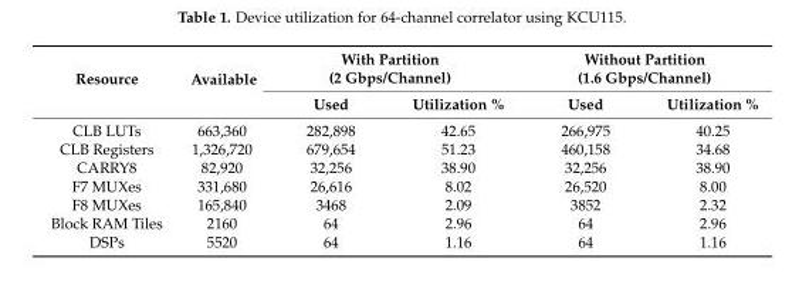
<table><thead><tr><td rowspan="2">Resource</td><td rowspan="2">Available</td><td colspan="2">With Partition (2 Gbps/Channel)</td><td colspan="2">Without Partition (1.6 Gbps/Channel)</td></tr><tr><td>Used</td><td>Utilization %</td><td>Used</td><td>Utilization %</td></tr></thead><tbody><tr><td>CLB LUTs</td><td>663,360</td><td>282,898</td><td>42.65</td><td>266,975</td><td>40.25</td></tr><tr><td>CLB Registers</td><td>1,326,720</td><td>679,654</td><td>51.23</td><td>460,158</td><td>34.68</td></tr><tr><td>CARRY8</td><td>82,920</td><td>32,256</td><td>38.90</td><td>32,256</td><td>38.90</td></tr><tr><td>F7 MUXes</td><td>331,680</td><td>26,616</td><td>8.02</td><td>26,520</td><td>8.00</td></tr><tr><td>F8 MUXes</td><td>165,840</td><td>3468</td><td>2.09</td><td>3852</td><td>2.32</td></tr><tr><td>Block RAM Tiles</td><td>2160</td><td>64</td><td>2.96</td><td>64</td><td>2.96</td></tr><tr><td>DSPs</td><td>5520</td><td>64</td><td>1.16</td><td>64</td><td>1.16</td></tr></tbody></table>